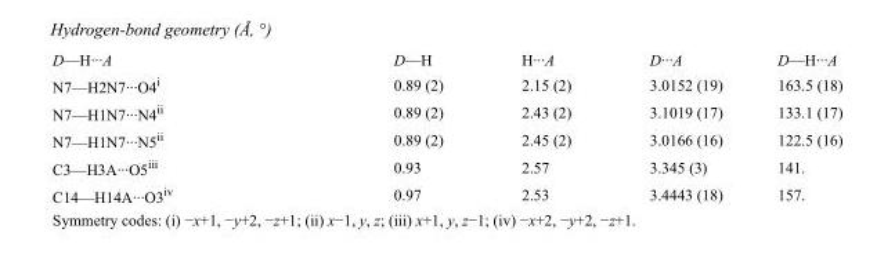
<table><tbody><tr><td>D—H···A</td><td>D—H</td><td>H···A</td><td>D···A</td><td>D—H···A</td></tr><tr><td>N7—H2N7···O4<sup>i</sup></td><td>0.89 (2)</td><td>2.15 (2)</td><td>3.0152 (19)</td><td>163.5 (18)</td></tr><tr><td>N7—H1N7···N4<sup>ii</sup></td><td>0.89 (2)</td><td>2.43 (2)</td><td>3.1019 (17)</td><td>133.1 (17)</td></tr><tr><td>N7—H1N7···N5<sup>ii</sup></td><td>0.89 (2)</td><td>2.45 (2)</td><td>3.0166 (16)</td><td>122.5 (16)</td></tr><tr><td>C3—H3A···O5<sup>iii</sup></td><td>0.93</td><td>2.57</td><td>3.345 (3)</td><td>141.</td></tr><tr><td>C14—H14A···O3<sup>iv</sup></td><td>0.97</td><td>2.53</td><td>3.4443 (18)</td><td>157.</td></tr></tbody></table>